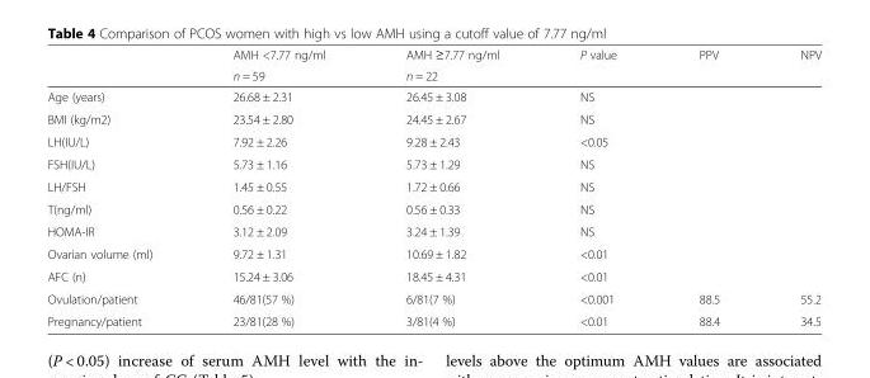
<table><thead><tr><td rowspan="2"></td><td rowspan="2">AMH &lt;7.77 ng/ml n = 59</td><td rowspan="2">AMH ≥7.77 ng/ml n = 22</td><td rowspan="2">P value</td><td rowspan="2">PPV</td><td rowspan="2">NPV</td></tr><tr></tr></thead><tbody><tr><td>Age (years)</td><td>26.68 ± 2.31</td><td>26.45 ± 3.08</td><td>NS</td><td></td><td></td></tr><tr><td>BMI (kg/m2)</td><td>23.54 ± 2.80</td><td>24.45 ± 2.67</td><td>NS</td><td></td><td></td></tr><tr><td>LH(IU/L)</td><td>7.92 ± 2.26</td><td>9.28 ± 2.43</td><td>&lt;0.05</td><td></td><td></td></tr><tr><td>FSH(IU/L)</td><td>5.73 ± 1.16</td><td>5.73 ± 1.29</td><td>NS</td><td></td><td></td></tr><tr><td>LH/FSH</td><td>1.45 ± 0.55</td><td>1.72 ± 0.66</td><td>NS</td><td></td><td></td></tr><tr><td>T(ng/ml)</td><td>0.56 ± 0.22</td><td>0.56 ± 0.33</td><td>NS</td><td></td><td></td></tr><tr><td>HOMA-IR</td><td>3.12 ± 2.09</td><td>3.24 ± 1.39</td><td>NS</td><td></td><td></td></tr><tr><td>Ovarian volume (ml)</td><td>9.72 ± 1.31</td><td>10.69 ± 1.82</td><td>&lt;0.01</td><td></td><td></td></tr><tr><td>AFC (n)</td><td>15.24 ± 3.06</td><td>18.45 ± 4.31</td><td>&lt;0.01</td><td></td><td></td></tr><tr><td>Ovulation/patient</td><td>46/81(57 %)</td><td>6/81(7 %)</td><td>&lt;0.001</td><td>88.5</td><td>55.2</td></tr><tr><td>Pregnancy/patient</td><td>23/81(28 %)</td><td>3/81(4 %)</td><td>&lt;0.01</td><td>88.4</td><td>34.5</td></tr></tbody></table>